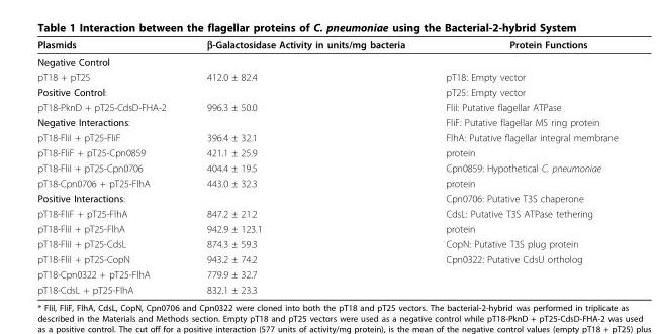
<table><thead><tr><td>Plasmids</td><td>β-Galactosidase Activity in units/mg bacteria</td><td>Protein Functions</td></tr></thead><tbody><tr><td colspan="3">Negative Control</td></tr><tr><td>pT18 + pT25</td><td>412.0 ± 82.4</td><td>pT18: Empty vector</td></tr><tr><td>Positive Control:</td><td></td><td>pT25: Empty vector</td></tr><tr><td>pT18-PknD + pT25-CdsD-FHA-2</td><td>996.3 ± 50.0</td><td>FliI: Putative flagellar ATPase</td></tr><tr><td>Negative Interactions:</td><td></td><td>FliF: Putative flagellar MS ring protein</td></tr><tr><td>pT18-FliI + pT25-FliF</td><td>396.4 ± 32.1</td><td>FlhA: Putative flagellar integral membrane</td></tr><tr><td>pT18-FliF + pT25-Cpn0859</td><td>421.1 ± 25.9</td><td>protein</td></tr><tr><td>pT18-FliI + pT25-Cpn0706</td><td>404.4 ± 19.5</td><td>Cpn0859: Hypothetical C. pneumoniae</td></tr><tr><td>pT18-Cpn0706 + pT25-FlhA</td><td>443.0 ± 32.3</td><td>protein</td></tr><tr><td>Positive Interactions:</td><td></td><td>Cpn0706: Putative T3S chaperone</td></tr><tr><td>pT18-FliF + pT25-FlhA</td><td>847.2 ± 21.2</td><td>CdsL: Putative T3S ATPase tethering</td></tr><tr><td>pT18-FliI + pT25-FlhA</td><td>942.9 ± 123.1</td><td>protein</td></tr><tr><td>pT18-FliI + pT25-CdsL</td><td>874.3 ± 59.3</td><td>CopN: Putative T3S plug protein</td></tr><tr><td>pT18-FliI + pT25-CopN</td><td>943.2 ± 74.2</td><td>Cpn0322: Putative CdsU ortholog</td></tr><tr><td>pT18-Cpn0322 + pT25-FlhA</td><td>779.9 ± 32.7</td><td></td></tr><tr><td>pT18-CdsL + pT25-FlhA</td><td>832.1 ± 23.3</td><td></td></tr></tbody></table>